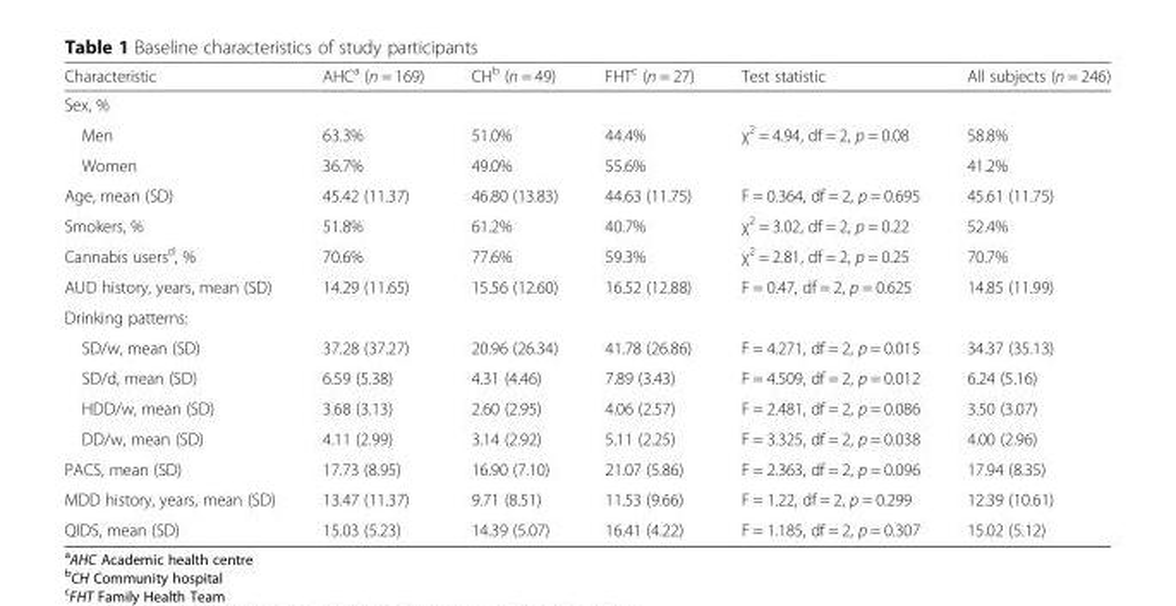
<table><thead><tr><td>Characteristic</td><td>AHC<sup>a</sup> (n = 169)</td><td>CH<sup>b</sup> (n = 49)</td><td>FHT<sup>c</sup> (n = 27)</td><td>Test statistic</td><td>All subjects (n = 246)</td></tr></thead><tbody><tr><td colspan="6">Sex, %</td></tr><tr><td>Men</td><td>63.3%</td><td>51.0%</td><td>44.4%</td><td>χ<sup>2</sup> = 4.94, df = 2, p = 0.08</td><td>58.8%</td></tr><tr><td>Women</td><td>36.7%</td><td>49.0%</td><td>55.6%</td><td></td><td>41.2%</td></tr><tr><td>Age, mean (SD)</td><td>45.42 (11.37)</td><td>46.80 (13.83)</td><td>44.63 (11.75)</td><td>F = 0.364, df = 2, p = 0.695</td><td>45.61 (11.75)</td></tr><tr><td>Smokers, %</td><td>51.8%</td><td>61.2%</td><td>40.7%</td><td>χ<sup>2</sup> = 3.02, df = 2, p = 0.22</td><td>52.4%</td></tr><tr><td>Cannabis users<sup>d</sup>, %</td><td>70.6%</td><td>77.6%</td><td>59.3%</td><td>χ<sup>2</sup> = 2.81, df = 2, p = 0.25</td><td>70.7%</td></tr><tr><td>AUD history, years, mean (SD)</td><td>14.29 (11.65)</td><td>15.56 (12.60)</td><td>16.52 (12.88)</td><td>F = 0.47, df = 2, p = 0.625</td><td>14.85 (11.99)</td></tr><tr><td colspan="6">Drinking patterns:</td></tr><tr><td>SD/w, mean (SD)</td><td>37.28 (37.27)</td><td>20.96 (26.34)</td><td>41.78 (26.86)</td><td>F = 4.271, df = 2, p = 0.015</td><td>34.37 (35.13)</td></tr><tr><td>SD/d, mean (SD)</td><td>6.59 (5.38)</td><td>4.31 (4.46)</td><td>7.89 (3.43)</td><td>F = 4.509, df = 2, p = 0.012</td><td>6.24 (5.16)</td></tr><tr><td>HDD/w, mean (SD)</td><td>3.68 (3.13)</td><td>2.60 (2.95)</td><td>4.06 (2.57)</td><td>F = 2.481, df = 2, p = 0.086</td><td>3.50 (3.07)</td></tr><tr><td>DD/w, mean (SD)</td><td>4.11 (2.99)</td><td>3.14 (2.92)</td><td>5.11 (2.25)</td><td>F = 3.325, df = 2, p = 0.038</td><td>4.00 (2.96)</td></tr><tr><td>PACS, mean (SD)</td><td>17.73 (8.95)</td><td>16.90 (7.10)</td><td>21.07 (5.86)</td><td>F = 2.363, df = 2, p = 0.096</td><td>17.94 (8.35)</td></tr><tr><td>MDD history, years, mean (SD)</td><td>13.47 (11.37)</td><td>9.71 (8.51)</td><td>11.53 (9.66)</td><td>F = 1.22, df = 2, p = 0.299</td><td>12.39 (10.61)</td></tr><tr><td>QIDS, mean (SD)</td><td>15.03 (5.23)</td><td>14.39 (5.07)</td><td>16.41 (4.22)</td><td>F = 1.185, df = 2, p = 0.307</td><td>15.02 (5.12)</td></tr></tbody></table>